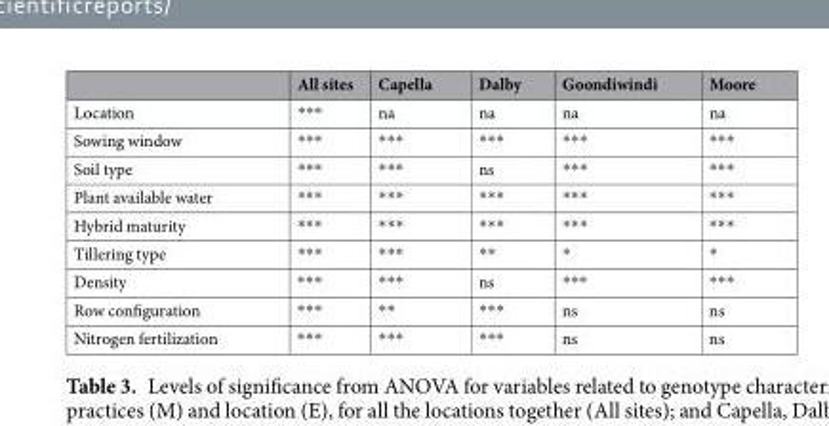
<table><thead><tr><td></td><td>All sites</td><td>Capella</td><td>Dalby</td><td>Goondiwindi</td><td>Moore</td></tr></thead><tbody><tr><td>Location</td><td>***</td><td>na</td><td>na</td><td>na</td><td>na</td></tr><tr><td>Sowing window</td><td>***</td><td>***</td><td>***</td><td>***</td><td>***</td></tr><tr><td>Soil type</td><td>***</td><td>***</td><td>ns</td><td>***</td><td>***</td></tr><tr><td>Plant available water</td><td>***</td><td>***</td><td>***</td><td>***</td><td>***</td></tr><tr><td>Hybrid maturity</td><td>***</td><td>***</td><td>***</td><td>***</td><td>***</td></tr><tr><td>Tillering type</td><td>***</td><td>***</td><td>**</td><td>*</td><td>*</td></tr><tr><td>Density</td><td>***</td><td>***</td><td>ns</td><td>***</td><td>***</td></tr><tr><td>Row configuration</td><td>***</td><td>**</td><td>***</td><td>ns</td><td>ns</td></tr><tr><td>Nitrogen fertilization</td><td>***</td><td>***</td><td>***</td><td>ns</td><td>ns</td></tr></tbody></table>